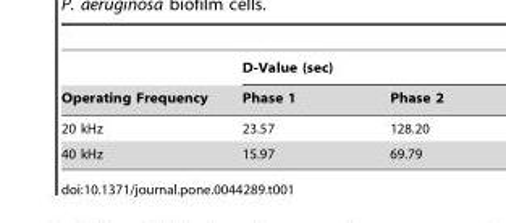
<table><thead><tr><td rowspan="2">Operating Frequency</td><td colspan="2">D-Value (sec)</td></tr><tr><td>Phase 1</td><td>Phase 2</td></tr></thead><tbody><tr><td>20 kHz</td><td>23.57</td><td>128.20</td></tr><tr><td>40 kHz</td><td>15.97</td><td>69.79</td></tr></tbody></table>